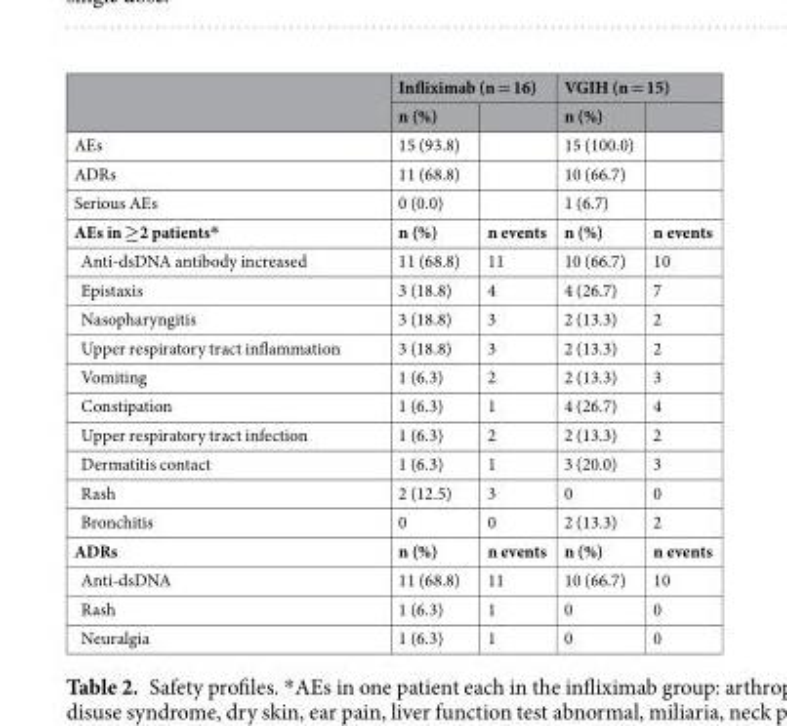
<table><thead><tr><td rowspan="2"></td><td colspan="2">Infliximab (n = 16)</td><td colspan="2">VGIH (n = 15)</td></tr><tr><td>n (%)</td><td></td><td>n (%)</td><td></td></tr></thead><tbody><tr><td>AEs</td><td>15 (93.8)</td><td></td><td>15 (100.0)</td><td></td></tr><tr><td>ADRs</td><td>11 (68.8)</td><td></td><td>10 (66.7)</td><td></td></tr><tr><td>Serious AEs</td><td>0 (0.0)</td><td></td><td>1 (6.7)</td><td></td></tr><tr><td>AEs in ≥2 patients*</td><td>n (%)</td><td>n events</td><td>n (%)</td><td>n events</td></tr><tr><td>Anti-dsDNA antibody increased</td><td>11 (68.8)</td><td>11</td><td>10 (66.7)</td><td>10</td></tr><tr><td>Epistaxis</td><td>3 (18.8)</td><td>4</td><td>4 (26.7)</td><td>7</td></tr><tr><td>Nasopharyngitis</td><td>3 (18.8)</td><td>3</td><td>2 (13.3)</td><td>2</td></tr><tr><td>Upper respiratory tract inflammation</td><td>3 (18.8)</td><td>3</td><td>2 (13.3)</td><td>2</td></tr><tr><td>Vomiting</td><td>1 (6.3)</td><td>2</td><td>2 (13.3)</td><td>3</td></tr><tr><td>Constipation</td><td>1 (6.3)</td><td>1</td><td>4 (26.7)</td><td>4</td></tr><tr><td>Upper respiratory tract infection</td><td>1 (6.3)</td><td>2</td><td>2 (13.3)</td><td>2</td></tr><tr><td>Dermatitis contact</td><td>1 (6.3)</td><td>1</td><td>3 (20.0)</td><td>3</td></tr><tr><td>Rash</td><td>2 (12.5)</td><td>3</td><td>0</td><td>0</td></tr><tr><td>Bronchitis</td><td>0</td><td>0</td><td>2 (13.3)</td><td>2</td></tr><tr><td>ADRs</td><td>n (%)</td><td>n events</td><td>n (%)</td><td>n events</td></tr><tr><td>Anti-dsDNA</td><td>11 (68.8)</td><td>11</td><td>10 (66.7)</td><td>10</td></tr><tr><td>Rash</td><td>1 (6.3)</td><td>1</td><td>0</td><td>0</td></tr><tr><td>Neuralgia</td><td>1 (6.3)</td><td>1</td><td>0</td><td>0</td></tr></tbody></table>